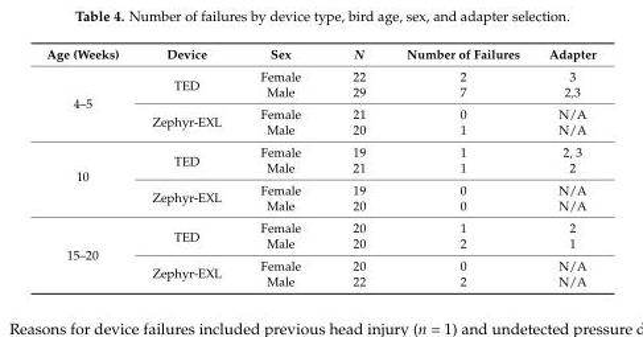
<table><thead><tr><td>Age (Weeks)</td><td>Device</td><td>Sex</td><td>N</td><td>Number of Failures</td><td>Adapter</td></tr></thead><tbody><tr><td rowspan="4">4–5</td><td rowspan="2">TED</td><td>Female</td><td>22</td><td>2</td><td>3</td></tr><tr><td>Male</td><td>29</td><td>7</td><td>2,3</td></tr><tr><td rowspan="2">Zephyr-EXL</td><td>Female</td><td>21</td><td>0</td><td>N/A</td></tr><tr><td>Male</td><td>20</td><td>1</td><td>N/A</td></tr><tr><td rowspan="4">10</td><td rowspan="2">TED</td><td>Female</td><td>19</td><td>1</td><td>2, 3</td></tr><tr><td>Male</td><td>21</td><td>1</td><td>2</td></tr><tr><td rowspan="2">Zephyr-EXL</td><td>Female</td><td>19</td><td>0</td><td>N/A</td></tr><tr><td>Male</td><td>20</td><td>0</td><td>N/A</td></tr><tr><td rowspan="4">15–20</td><td rowspan="2">TED</td><td>Female</td><td>20</td><td>1</td><td>2</td></tr><tr><td>Male</td><td>20</td><td>2</td><td>1</td></tr><tr><td rowspan="2">Zephyr-EXL</td><td>Female</td><td>20</td><td>0</td><td>N/A</td></tr><tr><td>Male</td><td>22</td><td>2</td><td>N/A</td></tr></tbody></table>